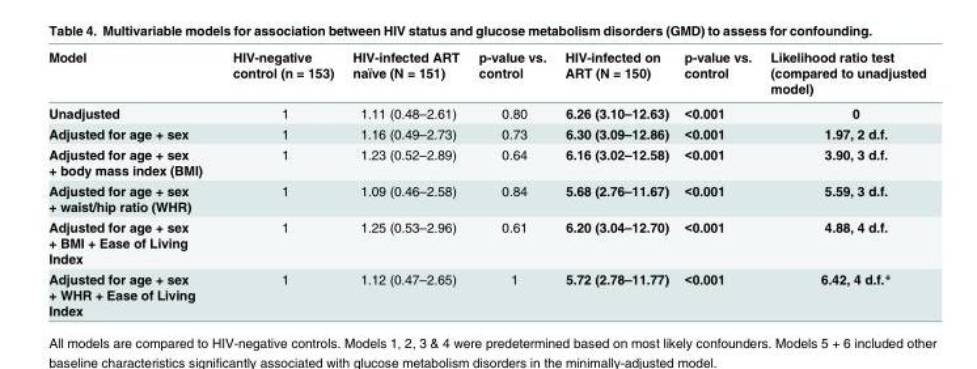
<table><thead><tr><td>Model</td><td>HIV-negative control (n = 153)</td><td>HIV-infected ART naïve (N = 151)</td><td>p-value vs. control</td><td>HIV-infected on ART (N = 150)</td><td>p-value vs. control</td><td>Likelihood ratio test (compared to unadjusted model)</td></tr></thead><tbody><tr><td>Unadjusted</td><td>1</td><td>1.11 (0.48–2.61)</td><td>0.80</td><td>6.26 (3.10–12.63)</td><td>&lt;0.001</td><td>0</td></tr><tr><td>Adjusted for age + sex</td><td>1</td><td>1.16 (0.49–2.73)</td><td>0.73</td><td>6.30 (3.09–12.86)</td><td>&lt;0.001</td><td>1.97, 2 d.f.</td></tr><tr><td>Adjusted for age + sex + body mass index (BMI)</td><td>1</td><td>1.23 (0.52–2.89)</td><td>0.64</td><td>6.16 (3.02–12.58)</td><td>&lt;0.001</td><td>3.90, 3 d.f.</td></tr><tr><td>Adjusted for age + sex + waist/hip ratio (WHR)</td><td>1</td><td>1.09 (0.46–2.58)</td><td>0.84</td><td>5.68 (2.76–11.67)</td><td>&lt;0.001</td><td>5.59, 3 d.f.</td></tr><tr><td>Adjusted for age + sex + BMI + Ease of Living Index</td><td>1</td><td>1.25 (0.53–2.96)</td><td>0.61</td><td>6.20 (3.04–12.70)</td><td>&lt;0.001</td><td>4.88, 4 d.f.</td></tr><tr><td>Adjusted for age + sex + WHR + Ease of Living Index</td><td>1</td><td>1.12 (0.47–2.65)</td><td>1</td><td>5.72 (2.78–11.77)</td><td>&lt;0.001</td><td>6.42, 4 d.f.*</td></tr></tbody></table>